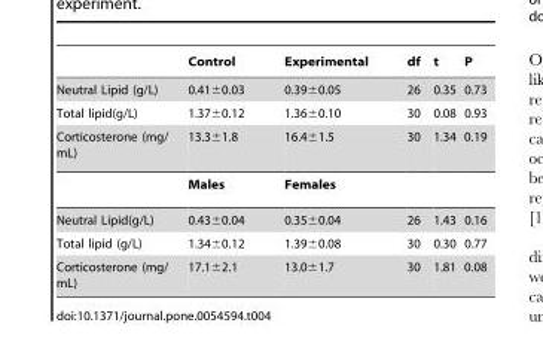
<table><thead><tr><td></td><td>Control</td><td>Experimental</td><td>df</td><td>t</td><td>P</td></tr></thead><tbody><tr><td>Neutral Lipid (g/L)</td><td>0.41±0.03</td><td>0.39±0.05</td><td>26</td><td>0.35</td><td>0.73</td></tr><tr><td>Total lipid(g/L)</td><td>1.37±0.12</td><td>1.36±0.10</td><td>30</td><td>0.08</td><td>0.93</td></tr><tr><td rowspan="2">Corticosterone (mg/ mL)</td><td>13.3±1.8</td><td>16.4±1.5</td><td>30</td><td>1.34</td><td>0.19</td></tr><tr><td>Males</td><td>Females</td><td></td><td></td><td></td></tr><tr><td>Neutral Lipid(g/L)</td><td>0.43±0.04</td><td>0.35±0.04</td><td>26</td><td>1.43</td><td>0.16</td></tr><tr><td>Total lipid (g/L)</td><td>1.34±0.12</td><td>1.39±0.08</td><td>30</td><td>0.30</td><td>0.77</td></tr><tr><td>Corticosterone (mg/ mL)</td><td>17.1±2.1</td><td>13.0±1.7</td><td>30</td><td>1.81</td><td>0.08</td></tr></tbody></table>